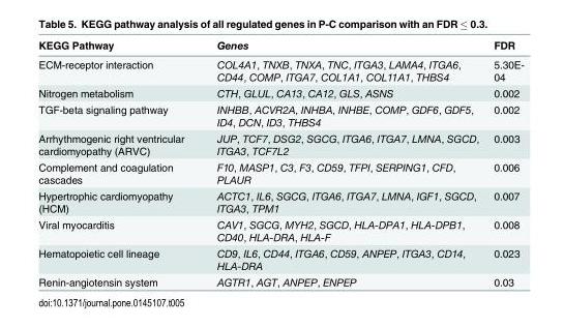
<table><thead><tr><td>KEGG Pathway</td><td>Genes</td><td>FDR</td></tr></thead><tbody><tr><td>ECM-receptor interaction</td><td>COL4A1, TNXB, TNXA, TNC, ITGA3, LAMA4, ITGA6, CD44, COMP, ITGA7, COL1A1, COL11A1, THBS4</td><td>5.30E- 04</td></tr><tr><td>Nitrogen metabolism</td><td>CTH, GLUL, CA13, CA12, GLS, ASNS</td><td>0.002</td></tr><tr><td>TGF-beta signaling pathway</td><td>INHBB, ACVR2A, INHBA, INHBE, COMP, GDF6, GDF5, ID4, DCN, ID3, THBS4</td><td>0.002</td></tr><tr><td>Arrhythmogenic right ventricular cardiomyopathy (ARVC)</td><td>JUP, TCF7, DSG2, SGCG, ITGA6, ITGA7, LMNA, SGCD, ITGA3, TCF7L2</td><td>0.003</td></tr><tr><td>Complement and coagulation cascades</td><td>F10, MASP1, C3, F3, CD59, TFPI, SERPING1, CFD, PLAUR</td><td>0.006</td></tr><tr><td>Hypertrophic cardiomyopathy (HCM)</td><td>ACTC1, IL6, SGCG, ITGA6, ITGA7, LMNA, IGF1, SGCD, ITGA3, TPM1</td><td>0.007</td></tr><tr><td>Viral myocarditis</td><td>CAV1, SGCG, MYH2, SGCD, HLA-DPA1, HLA-DPB1, CD40, HLA-DRA, HLA-F</td><td>0.008</td></tr><tr><td>Hematopoietic cell lineage</td><td>CD9, IL6, CD44, ITGA6, CD59, ANPEP, ITGA3, CD14, HLA-DRA</td><td>0.023</td></tr><tr><td>Renin-angiotensin system</td><td>AGTR1, AGT, ANPEP, ENPEP</td><td>0.03</td></tr></tbody></table>